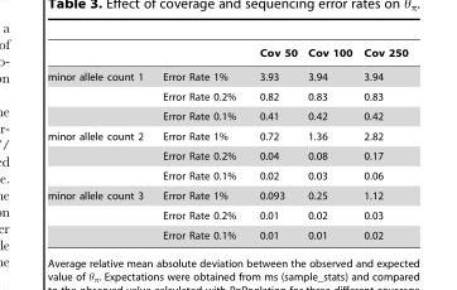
<table><thead><tr><td></td><td></td><td>Cov 50</td><td>Cov 100</td><td>Cov 250</td></tr></thead><tbody><tr><td rowspan="3">minor allele count 1</td><td>Error Rate 1%</td><td>3.93</td><td>3.94</td><td>3.94</td></tr><tr><td>Error Rate 0.2%</td><td>0.82</td><td>0.83</td><td>0.83</td></tr><tr><td>Error Rate 0.1%</td><td>0.41</td><td>0.42</td><td>0.42</td></tr><tr><td rowspan="3">minor allele count 2</td><td>Error Rate 1%</td><td>0.72</td><td>1.36</td><td>2.82</td></tr><tr><td>Error Rate 0.2%</td><td>0.04</td><td>0.08</td><td>0.17</td></tr><tr><td>Error Rate 0.1%</td><td>0.02</td><td>0.03</td><td>0.06</td></tr><tr><td rowspan="3">minor allele count 3</td><td>Error Rate 1%</td><td>0.093</td><td>0.25</td><td>1.12</td></tr><tr><td>Error Rate 0.2%</td><td>0.01</td><td>0.02</td><td>0.03</td></tr><tr><td>Error Rate 0.1%</td><td>0.01</td><td>0.01</td><td>0.02</td></tr></tbody></table>